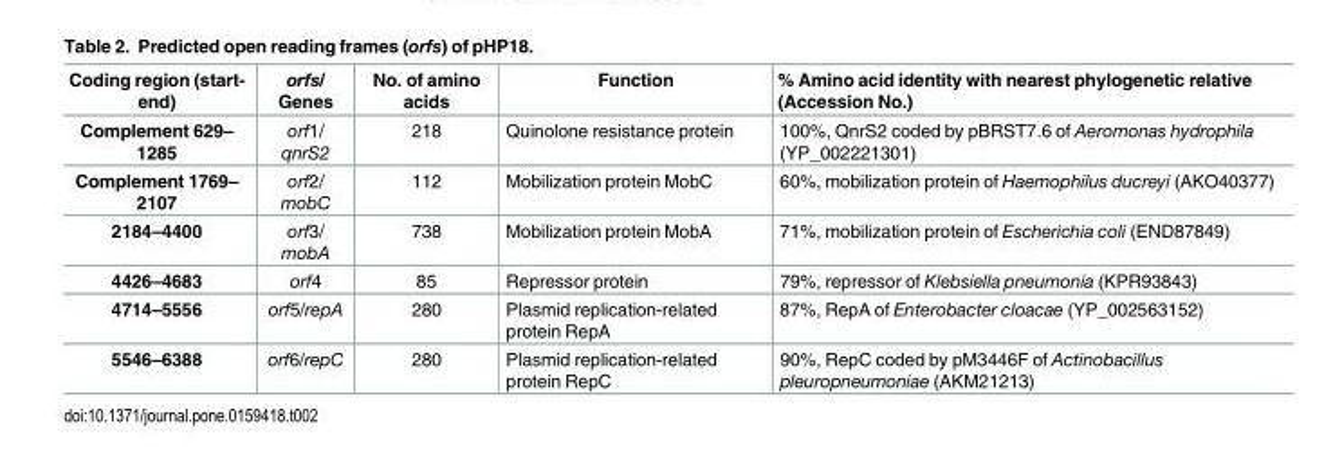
<table><thead><tr><td>Coding region (start- end)</td><td>orfs/ Genes</td><td>No. of amino acids</td><td>Function</td><td>% Amino acid identity with nearest phylogenetic relative (Accession No.)</td></tr></thead><tbody><tr><td>Complement 629– 1285</td><td>orf1/ qnrS2</td><td>218</td><td>Quinolone resistance protein</td><td>100%, QnrS2 coded by pBRST7.6 of Aeromonas hydrophila (YP_002221301)</td></tr><tr><td>Complement 1769– 2107</td><td>orf2/ mobC</td><td>112</td><td>Mobilization protein MobC</td><td>60%, mobilization protein of Haemophilus ducreyi (AKO40377)</td></tr><tr><td>2184–4400</td><td>orf3/ mobA</td><td>738</td><td>Mobilization protein MobA</td><td>71%, mobilization protein of Escherichia coli (END87849)</td></tr><tr><td>4426–4683</td><td>orf4</td><td>85</td><td>Repressor protein</td><td>79%, repressor of Klebsiella pneumonia (KPR93843)</td></tr><tr><td>4714–5556</td><td>orf5/repA</td><td>280</td><td>Plasmid replication-related protein RepA</td><td>87%, RepA of Enterobacter cloacae (YP_002563152)</td></tr><tr><td>5546–6388</td><td>orf6/repC</td><td>280</td><td>Plasmid replication-related protein RepC</td><td>90%, RepC coded by pM3446F of Actinobacillus pleuropneumoniae (AKM21213)</td></tr></tbody></table>